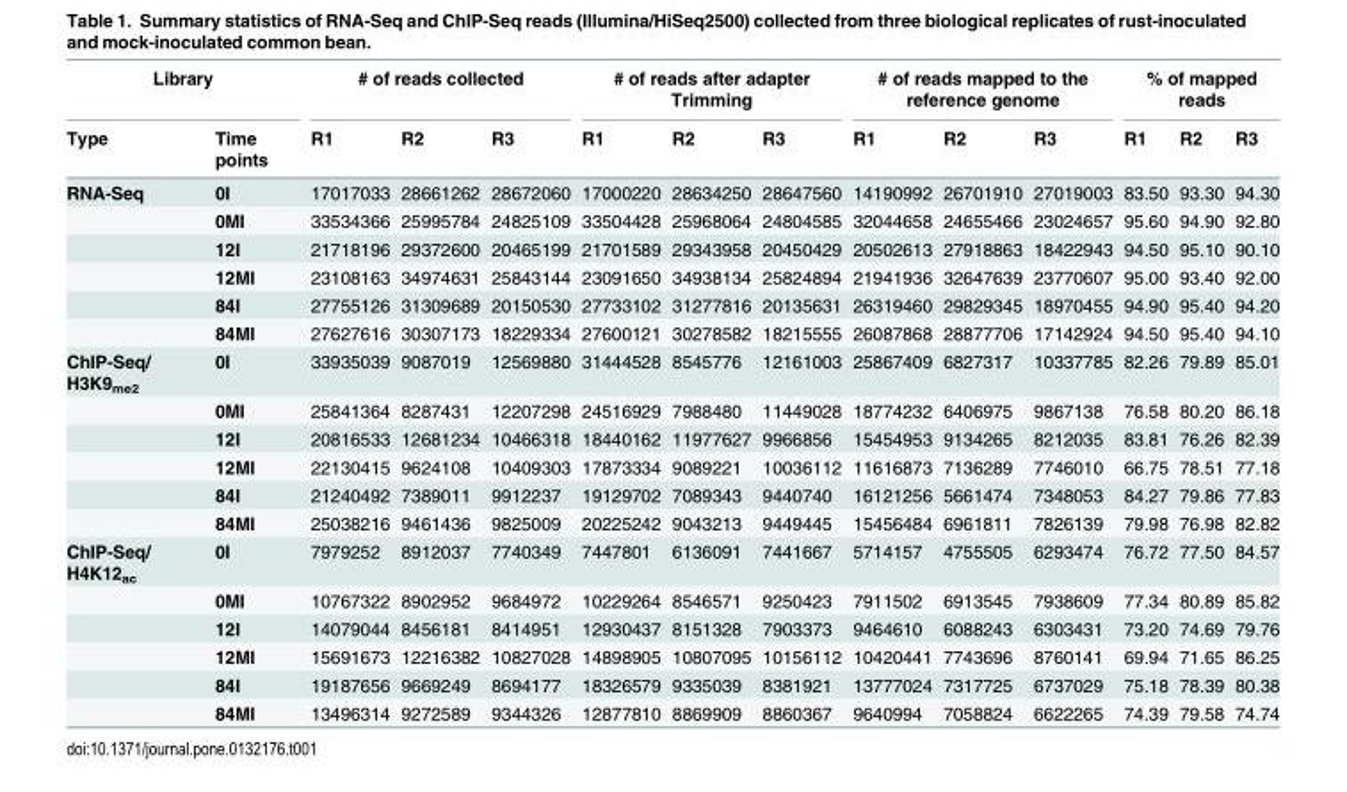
<table><thead><tr><td colspan="2">Library</td><td colspan="3"># of reads collected</td><td colspan="3"># of reads after adapter Trimming</td><td colspan="3"># of reads mapped to the reference genome</td><td colspan="3">% of mapped reads</td></tr><tr><td>Type</td><td>Time points</td><td>R1</td><td>R2</td><td>R3</td><td>R1</td><td>R2</td><td>R3</td><td>R1</td><td>R2</td><td>R3</td><td>R1</td><td>R2</td><td>R3</td></tr></thead><tbody><tr><td rowspan="6">RNA-Seq</td><td>0I</td><td>17017033</td><td>28661262</td><td>28672060</td><td>17000220</td><td>28634250</td><td>28647560</td><td>14190992</td><td>26701910</td><td>27019003</td><td>83.50</td><td>93.30</td><td>94.30</td></tr><tr><td>0MI</td><td>33534366</td><td>25995784</td><td>24825109</td><td>33504428</td><td>25968064</td><td>24804585</td><td>32044658</td><td>24655466</td><td>23024657</td><td>95.60</td><td>94.90</td><td>92.80</td></tr><tr><td>12I</td><td>21718196</td><td>29372600</td><td>20465199</td><td>21701589</td><td>29343958</td><td>20450429</td><td>20502613</td><td>27918863</td><td>18422943</td><td>94.50</td><td>95.10</td><td>90.10</td></tr><tr><td>12MI</td><td>23108163</td><td>34974631</td><td>25843144</td><td>23091650</td><td>34938134</td><td>25824894</td><td>21941936</td><td>32647639</td><td>23770607</td><td>95.00</td><td>93.40</td><td>92.00</td></tr><tr><td>84I</td><td>27755126</td><td>31309689</td><td>20150530</td><td>27733102</td><td>31277816</td><td>20135631</td><td>26319460</td><td>29829345</td><td>18970455</td><td>94.90</td><td>95.40</td><td>94.20</td></tr><tr><td>84MI</td><td>27627616</td><td>30307173</td><td>18229334</td><td>27600121</td><td>30278582</td><td>18215555</td><td>26087868</td><td>28877706</td><td>17142924</td><td>94.50</td><td>95.40</td><td>94.10</td></tr><tr><td rowspan="6">ChIP-Seq/ H3K9<sub>me2</sub></td><td>0I</td><td>33935039</td><td>9087019</td><td>12569880</td><td>31444528</td><td>8545776</td><td>12161003</td><td>25867409</td><td>6827317</td><td>10337785</td><td>82.26</td><td>79.89</td><td>85.01</td></tr><tr><td>0MI</td><td>25841364</td><td>8287431</td><td>12207298</td><td>24516929</td><td>7988480</td><td>11449028</td><td>18774232</td><td>6406975</td><td>9867138</td><td>76.58</td><td>80.20</td><td>86.18</td></tr><tr><td>12I</td><td>20816533</td><td>12681234</td><td>10466318</td><td>18440162</td><td>11977627</td><td>9966856</td><td>15454953</td><td>9134265</td><td>8212035</td><td>83.81</td><td>76.26</td><td>82.39</td></tr><tr><td>12MI</td><td>22130415</td><td>9624108</td><td>10409303</td><td>17873334</td><td>9089221</td><td>10036112</td><td>11616873</td><td>7136289</td><td>7746010</td><td>66.75</td><td>78.51</td><td>77.18</td></tr><tr><td>84I</td><td>21240492</td><td>7389011</td><td>9912237</td><td>19129702</td><td>7089343</td><td>9440740</td><td>16121256</td><td>5661474</td><td>7348053</td><td>84.27</td><td>79.86</td><td>77.83</td></tr><tr><td>84MI</td><td>25038216</td><td>9461436</td><td>9825009</td><td>20225242</td><td>9043213</td><td>9449445</td><td>15456484</td><td>6961811</td><td>7826139</td><td>79.98</td><td>76.98</td><td>82.82</td></tr><tr><td rowspan="6">ChIP-Seq/ H4K12<sub>ac</sub></td><td>0I</td><td>7979252</td><td>8912037</td><td>7740349</td><td>7447801</td><td>6136091</td><td>7441667</td><td>5714157</td><td>4755505</td><td>6293474</td><td>76.72</td><td>77.50</td><td>84.57</td></tr><tr><td>0MI</td><td>10767322</td><td>8902952</td><td>9684972</td><td>10229264</td><td>8546571</td><td>9250423</td><td>7911502</td><td>6913545</td><td>7938609</td><td>77.34</td><td>80.89</td><td>85.82</td></tr><tr><td>12I</td><td>14079044</td><td>8456181</td><td>8414951</td><td>12930437</td><td>8151328</td><td>7903373</td><td>9464610</td><td>6088243</td><td>6303431</td><td>73.20</td><td>74.69</td><td>79.76</td></tr><tr><td>12MI</td><td>15691673</td><td>12216382</td><td>10827028</td><td>14898905</td><td>10807095</td><td>10156112</td><td>10420441</td><td>7743696</td><td>8760141</td><td>69.94</td><td>71.65</td><td>86.25</td></tr><tr><td>84I</td><td>19187656</td><td>9669249</td><td>8694177</td><td>18326579</td><td>9335039</td><td>8381921</td><td>13777024</td><td>7317725</td><td>6737029</td><td>75.18</td><td>78.39</td><td>80.38</td></tr><tr><td>84MI</td><td>13496314</td><td>9272589</td><td>9344326</td><td>12877810</td><td>8869909</td><td>8860367</td><td>9640994</td><td>7058824</td><td>6622265</td><td>74.39</td><td>79.58</td><td>74.74</td></tr></tbody></table>